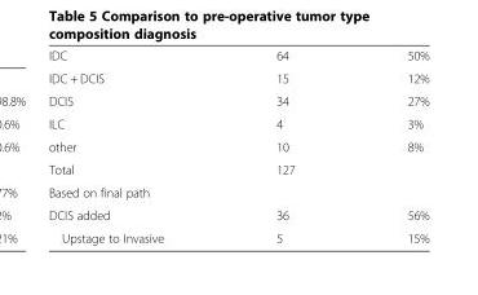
<table><tbody><tr><td>IDC</td><td>64</td><td>50%</td></tr><tr><td>IDC + DCIS</td><td>15</td><td>12%</td></tr><tr><td>DCIS</td><td>34</td><td>27%</td></tr><tr><td>ILC</td><td>4</td><td>3%</td></tr><tr><td>other</td><td>10</td><td>8%</td></tr><tr><td>Total</td><td>127</td><td></td></tr><tr><td colspan="3">Based on final path</td></tr><tr><td>DCIS added</td><td>36</td><td>56%</td></tr><tr><td>Upstage to Invasive</td><td>5</td><td>15%</td></tr></tbody></table>